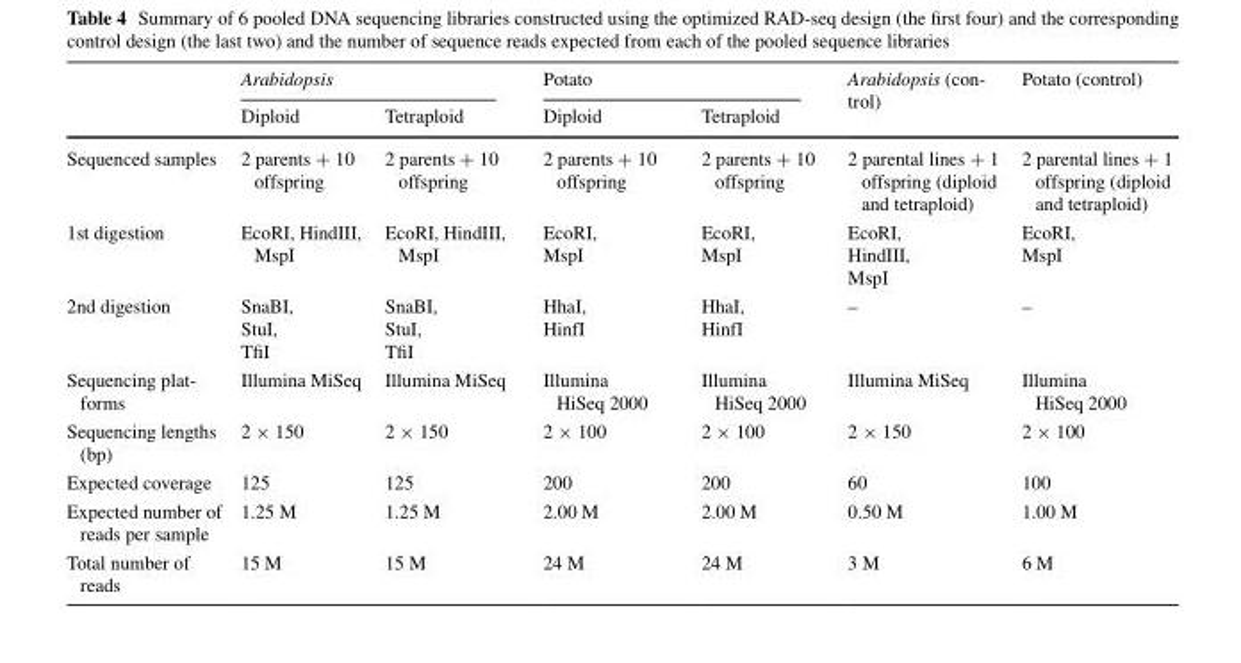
<table><thead><tr><td rowspan="2"></td><td colspan="2">Arabidopsis</td><td colspan="2">Potato</td><td rowspan="2">Arabidopsis (con- trol)</td><td rowspan="2">Potato (control)</td></tr><tr><td>Diploid</td><td>Tetraploid</td><td>Diploid</td><td>Tetraploid</td></tr></thead><tbody><tr><td>Sequenced samples</td><td>2 parents + 10 offspring</td><td>2 parents + 10 offspring</td><td>2 parents + 10 offspring</td><td>2 parents + 10 offspring</td><td>2 parental lines + 1 offspring (diploid and tetraploid)</td><td>2 parental lines + 1 offspring (diploid and tetraploid)</td></tr><tr><td>1st digestion</td><td>EcoRI, HindIII, MspI</td><td>EcoRI, HindIII, MspI</td><td>EcoRI, MspI</td><td>EcoRI, MspI</td><td>EcoRI, HindIII, MspI</td><td>EcoRI, MspI</td></tr><tr><td>2nd digestion</td><td>SnaBI, StuI, TfiI</td><td>SnaBI, StuI, TfiI</td><td>HhaI, HinfI</td><td>HhaI, HinfI</td><td>–</td><td>–</td></tr><tr><td>Sequencing plat- forms</td><td>Illumina MiSeq</td><td>Illumina MiSeq</td><td>Illumina HiSeq 2000</td><td>Illumina HiSeq 2000</td><td>Illumina MiSeq</td><td>Illumina HiSeq 2000</td></tr><tr><td>Sequencing lengths (bp)</td><td>2 × 150</td><td>2 × 150</td><td>2 × 100</td><td>2 × 100</td><td>2 × 150</td><td>2 × 100</td></tr><tr><td>Expected coverage</td><td>125</td><td>125</td><td>200</td><td>200</td><td>60</td><td>100</td></tr><tr><td>Expected number of reads per sample</td><td>1.25 M</td><td>1.25 M</td><td>2.00 M</td><td>2.00 M</td><td>0.50 M</td><td>1.00 M</td></tr><tr><td>Total number of reads</td><td>15 M</td><td>15 M</td><td>24 M</td><td>24 M</td><td>3 M</td><td>6 M</td></tr></tbody></table>